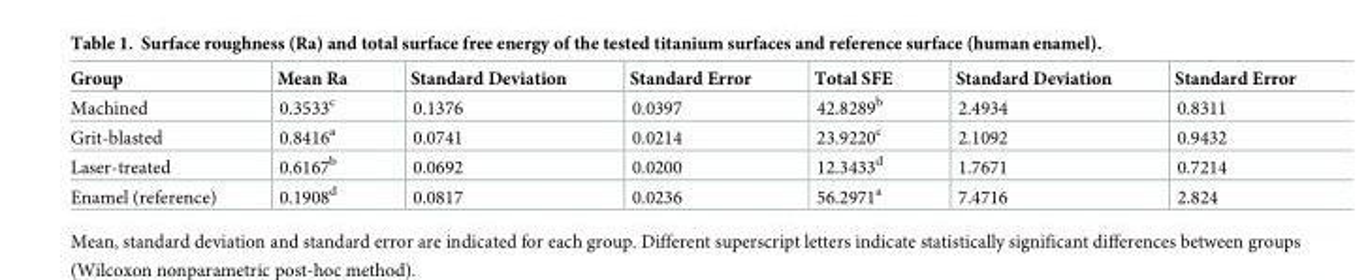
<table><thead><tr><td>Group</td><td>Mean Ra</td><td>Standard Deviation</td><td>Standard Error</td><td>Total SFE</td><td>Standard Deviation</td><td>Standard Error</td></tr></thead><tbody><tr><td>Machined</td><td>0.3533<sup>c</sup></td><td>0.1376</td><td>0.0397</td><td>42.8289<sup>b</sup></td><td>2.4934</td><td>0.8311</td></tr><tr><td>Grit-blasted</td><td>0.8416<sup>a</sup></td><td>0.0741</td><td>0.0214</td><td>23.9220<sup>c</sup></td><td>2.1092</td><td>0.9432</td></tr><tr><td>Laser-treated</td><td>0.6167<sup>b</sup></td><td>0.0692</td><td>0.0200</td><td>12.3433<sup>d</sup></td><td>1.7671</td><td>0.7214</td></tr><tr><td>Enamel (reference)</td><td>0.1908<sup>d</sup></td><td>0.0817</td><td>0.0236</td><td>56.2971<sup>a</sup></td><td>7.4716</td><td>2.824</td></tr></tbody></table>